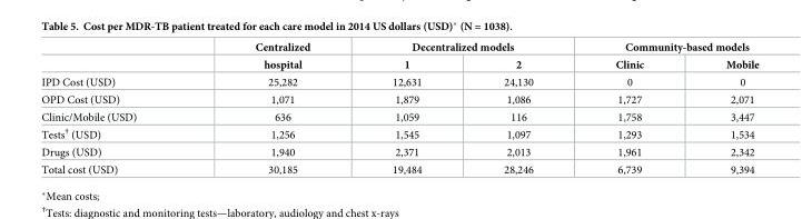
<table><thead><tr><td rowspan="2"></td><td rowspan="2">Centralized hospital</td><td colspan="2">Decentralized models</td><td colspan="2">Community-based models</td></tr><tr><td>1</td><td>2</td><td>Clinic</td><td>Mobile</td></tr></thead><tbody><tr><td>IPD Cost (USD)</td><td>25,282</td><td>12,631</td><td>24,130</td><td>0</td><td>0</td></tr><tr><td>OPD Cost (USD)</td><td>1,071</td><td>1,879</td><td>1,086</td><td>1,727</td><td>2,071</td></tr><tr><td>Clinic/Mobile (USD)</td><td>636</td><td>1,059</td><td>116</td><td>1,758</td><td>3,447</td></tr><tr><td>Tests<sup>†</sup> (USD)</td><td>1,256</td><td>1,545</td><td>1,097</td><td>1,293</td><td>1,534</td></tr><tr><td>Drugs (USD)</td><td>1,940</td><td>2,371</td><td>2,013</td><td>1,961</td><td>2,342</td></tr><tr><td>Total cost (USD)</td><td>30,185</td><td>19,484</td><td>28,246</td><td>6,739</td><td>9,394</td></tr></tbody></table>